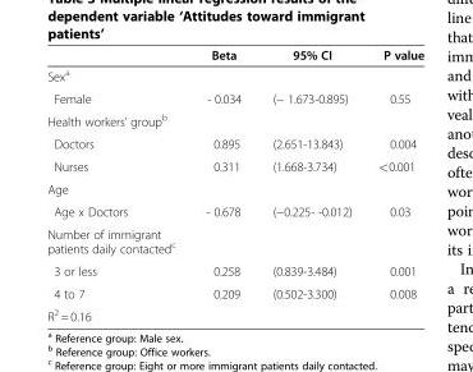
<table><thead><tr><td></td><td>Beta</td><td>95% CI</td><td>P value</td></tr></thead><tbody><tr><td colspan="4">Sex<sup>a</sup></td></tr><tr><td>Female</td><td>- 0.034</td><td>(− 1.673-0.895)</td><td>0.55</td></tr><tr><td colspan="4">Health workers’ group<sup>b</sup></td></tr><tr><td>Doctors</td><td>0.895</td><td>(2.651-13.843)</td><td>0.004</td></tr><tr><td>Nurses</td><td>0.311</td><td>(1.668-3.734)</td><td>&lt;0.001</td></tr><tr><td colspan="4">Age</td></tr><tr><td>Age x Doctors</td><td>- 0.678</td><td>(−0.225- -0.012)</td><td>0.03</td></tr><tr><td colspan="4">Number of immigrant patients daily contacted<sup>c</sup></td></tr><tr><td>3 or less</td><td>0.258</td><td>(0.839-3.484)</td><td>0.001</td></tr><tr><td>4 to 7</td><td>0.209</td><td>(0.502-3.300)</td><td>0.008</td></tr><tr><td>R<sup>2</sup> = 0.16</td><td></td><td></td><td></td></tr></tbody></table>